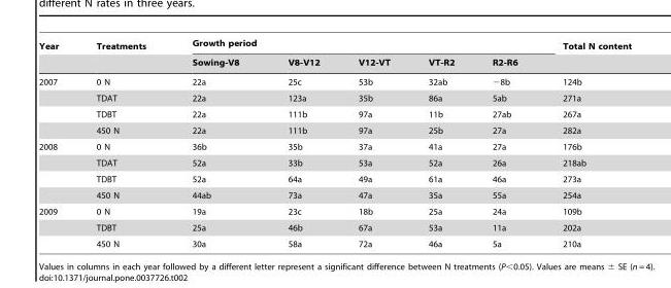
<table><thead><tr><td rowspan="2">Year</td><td rowspan="2">Treatments</td><td colspan="5">Growth period</td><td rowspan="2">Total N content</td></tr><tr><td>Sowing-V8</td><td>V8-V12</td><td>V12-VT</td><td>VT-R2</td><td>R2-R6</td></tr></thead><tbody><tr><td rowspan="4">2007</td><td>0 N</td><td>22a</td><td>25c</td><td>53b</td><td>32ab</td><td>−8b</td><td>124b</td></tr><tr><td>TDAT</td><td>22a</td><td>123a</td><td>35b</td><td>86a</td><td>5ab</td><td>271a</td></tr><tr><td>TDBT</td><td>22a</td><td>111b</td><td>97a</td><td>11b</td><td>27ab</td><td>267a</td></tr><tr><td>450 N</td><td>22a</td><td>111b</td><td>97a</td><td>25b</td><td>27a</td><td>282a</td></tr><tr><td rowspan="4">2008</td><td>0 N</td><td>36b</td><td>35b</td><td>37a</td><td>41a</td><td>27a</td><td>176b</td></tr><tr><td>TDAT</td><td>52a</td><td>33b</td><td>53a</td><td>52a</td><td>26a</td><td>218ab</td></tr><tr><td>TDBT</td><td>52a</td><td>64a</td><td>49a</td><td>61a</td><td>46a</td><td>273a</td></tr><tr><td>450 N</td><td>44ab</td><td>73a</td><td>47a</td><td>35a</td><td>55a</td><td>254a</td></tr><tr><td rowspan="3">2009</td><td>0 N</td><td>19a</td><td>23c</td><td>18b</td><td>25a</td><td>24a</td><td>109b</td></tr><tr><td>TDBT</td><td>25a</td><td>46b</td><td>67a</td><td>53a</td><td>11a</td><td>202a</td></tr><tr><td>450 N</td><td>30a</td><td>58a</td><td>72a</td><td>46a</td><td>5a</td><td>210a</td></tr></tbody></table>